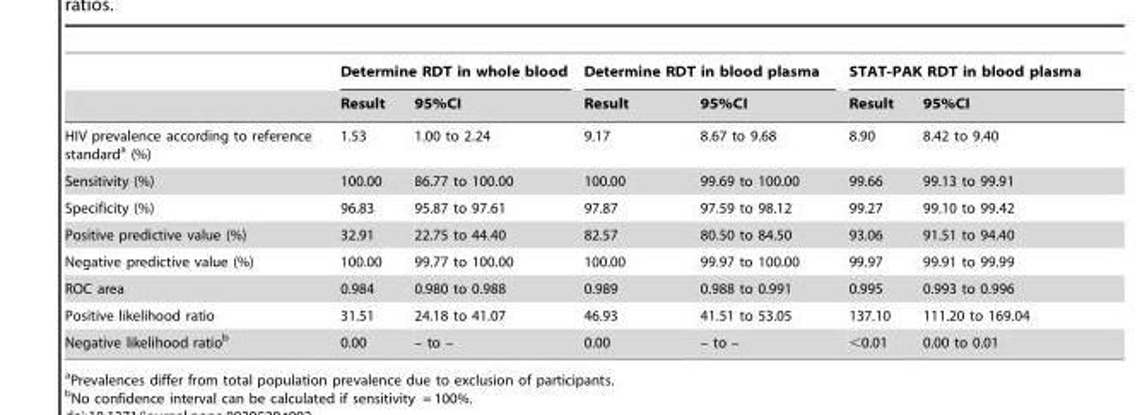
<table><thead><tr><td rowspan="2"></td><td colspan="2">Determine RDT in whole blood</td><td colspan="2">Determine RDT in blood plasma</td><td colspan="2">STAT-PAK RDT in blood plasma</td></tr><tr><td>Result</td><td>95%CI</td><td>Result</td><td>95%CI</td><td>Result</td><td>95%CI</td></tr></thead><tbody><tr><td>HIV prevalence according to reference standard<sup>a</sup> (%)</td><td>1.53</td><td>1.00 to 2.24</td><td>9.17</td><td>8.67 to 9.68</td><td>8.90</td><td>8.42 to 9.40</td></tr><tr><td>Sensitivity (%)</td><td>100.00</td><td>86.77 to 100.00</td><td>100.00</td><td>99.69 to 100.00</td><td>99.66</td><td>99.13 to 99.91</td></tr><tr><td>Specificity (%)</td><td>96.83</td><td>95.87 to 97.61</td><td>97.87</td><td>97.59 to 98.12</td><td>99.27</td><td>99.10 to 99.42</td></tr><tr><td>Positive predictive value (%)</td><td>32.91</td><td>22.75 to 44.40</td><td>82.57</td><td>80.50 to 84.50</td><td>93.06</td><td>91.51 to 94.40</td></tr><tr><td>Negative predictive value (%)</td><td>100.00</td><td>99.77 to 100.00</td><td>100.00</td><td>99.97 to 100.00</td><td>99.97</td><td>99.91 to 99.99</td></tr><tr><td>ROC area</td><td>0.984</td><td>0.980 to 0.988</td><td>0.989</td><td>0.988 to 0.991</td><td>0.995</td><td>0.993 to 0.996</td></tr><tr><td>Positive likelihood ratio</td><td>31.51</td><td>24.18 to 41.07</td><td>46.93</td><td>41.51 to 53.05</td><td>137.10</td><td>111.20 to 169.04</td></tr><tr><td>Negative likelihood ratio<sup>b</sup></td><td>0.00</td><td>– to –</td><td>0.00</td><td>– to –</td><td>&lt;0.01</td><td>0.00 to 0.01</td></tr></tbody></table>